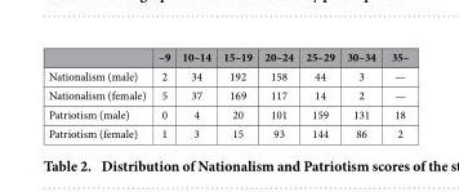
<table><thead><tr><td></td><td>–9</td><td>10–14</td><td>15–19</td><td>20–24</td><td>25–29</td><td>30–34</td><td>35–</td></tr></thead><tbody><tr><td>Nationalism (male)</td><td>2</td><td>34</td><td>192</td><td>158</td><td>44</td><td>3</td><td>—</td></tr><tr><td>Nationalism (female)</td><td>5</td><td>37</td><td>169</td><td>117</td><td>14</td><td>2</td><td>—</td></tr><tr><td>Patriotism (male)</td><td>0</td><td>4</td><td>20</td><td>101</td><td>159</td><td>131</td><td>18</td></tr><tr><td>Patriotism (female)</td><td>1</td><td>3</td><td>15</td><td>93</td><td>144</td><td>86</td><td>2</td></tr></tbody></table>